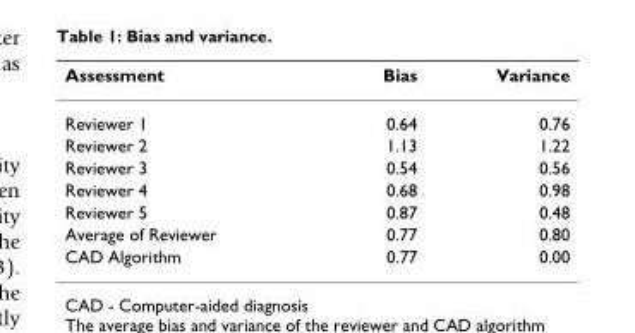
<table><thead><tr><td>Assessment</td><td>Bias</td><td>Variance</td></tr></thead><tbody><tr><td>Reviewer 1</td><td>0.64</td><td>0.76</td></tr><tr><td>Reviewer 2</td><td>1.13</td><td>1.22</td></tr><tr><td>Reviewer 3</td><td>0.54</td><td>0.56</td></tr><tr><td>Reviewer 4</td><td>0.68</td><td>0.98</td></tr><tr><td>Reviewer 5</td><td>0.87</td><td>0.48</td></tr><tr><td>Average of Reviewer</td><td>0.77</td><td>0.80</td></tr><tr><td>CAD Algorithm</td><td>0.77</td><td>0.00</td></tr></tbody></table>